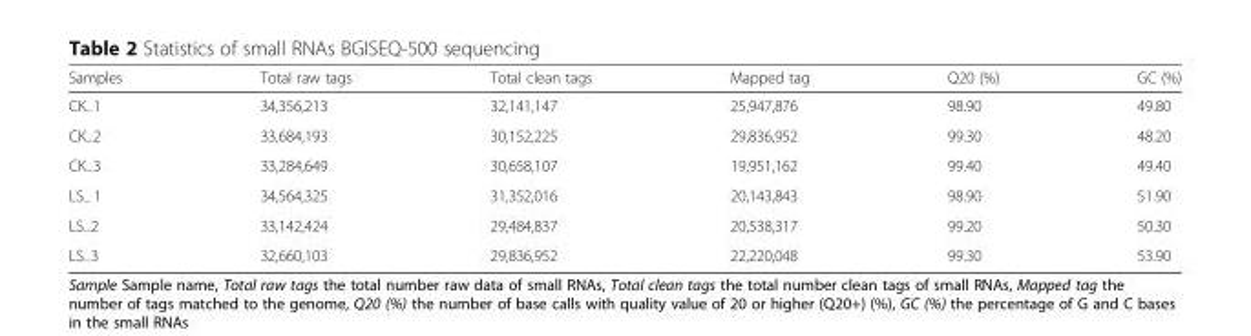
<table><thead><tr><td>Samples</td><td>Total raw tags</td><td>Total clean tags</td><td>Mapped tag</td><td>Q20 (%)</td><td>GC (%)</td></tr></thead><tbody><tr><td>CK<sub>−</sub>1</td><td>34,356,213</td><td>32,141,147</td><td>25,947,876</td><td>98.90</td><td>49.80</td></tr><tr><td>CK<sub>−</sub>2</td><td>33,684,193</td><td>30,152,225</td><td>29,836,952</td><td>99.30</td><td>48.20</td></tr><tr><td>CK<sub>−</sub>3</td><td>33,284,649</td><td>30,658,107</td><td>19,951,162</td><td>99.40</td><td>49.40</td></tr><tr><td>LS<sub>−</sub> 1</td><td>34,564,325</td><td>31,352,016</td><td>20,143,843</td><td>98.90</td><td>51.90</td></tr><tr><td>LS<sub>−</sub>2</td><td>33,142,424</td><td>29,484,837</td><td>20,538,317</td><td>99.20</td><td>50.30</td></tr><tr><td>LS<sub>−</sub>3</td><td>32,660,103</td><td>29,836,952</td><td>22,220,048</td><td>99.30</td><td>53.90</td></tr></tbody></table>